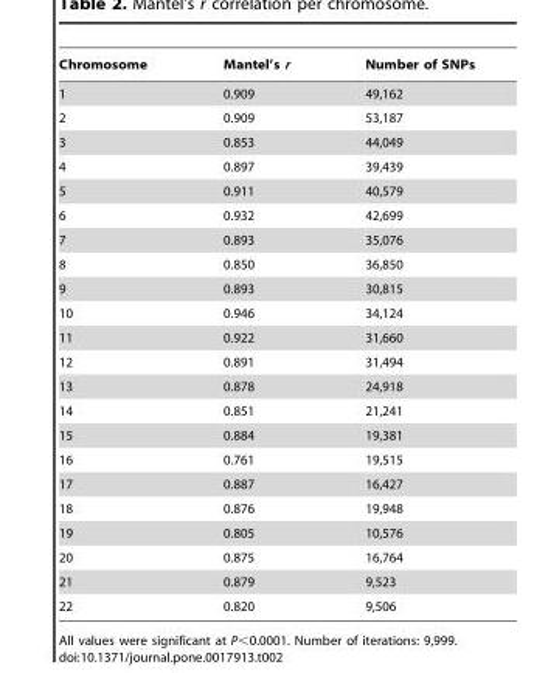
<table><thead><tr><td>Chromosome</td><td>Mantel’s r</td><td>Number of SNPs</td></tr></thead><tbody><tr><td>1</td><td>0.909</td><td>49,162</td></tr><tr><td>2</td><td>0.909</td><td>53,187</td></tr><tr><td>3</td><td>0.853</td><td>44,049</td></tr><tr><td>4</td><td>0.897</td><td>39,439</td></tr><tr><td>5</td><td>0.911</td><td>40,579</td></tr><tr><td>6</td><td>0.932</td><td>42,699</td></tr><tr><td>7</td><td>0.893</td><td>35,076</td></tr><tr><td>8</td><td>0.850</td><td>36,850</td></tr><tr><td>9</td><td>0.893</td><td>30,815</td></tr><tr><td>10</td><td>0.946</td><td>34,124</td></tr><tr><td>11</td><td>0.922</td><td>31,660</td></tr><tr><td>12</td><td>0.891</td><td>31,494</td></tr><tr><td>13</td><td>0.878</td><td>24,918</td></tr><tr><td>14</td><td>0.851</td><td>21,241</td></tr><tr><td>15</td><td>0.884</td><td>19,381</td></tr><tr><td>16</td><td>0.761</td><td>19,515</td></tr><tr><td>17</td><td>0.887</td><td>16,427</td></tr><tr><td>18</td><td>0.876</td><td>19,948</td></tr><tr><td>19</td><td>0.805</td><td>10,576</td></tr><tr><td>20</td><td>0.875</td><td>16,764</td></tr><tr><td>21</td><td>0.879</td><td>9,523</td></tr><tr><td>22</td><td>0.820</td><td>9,506</td></tr></tbody></table>